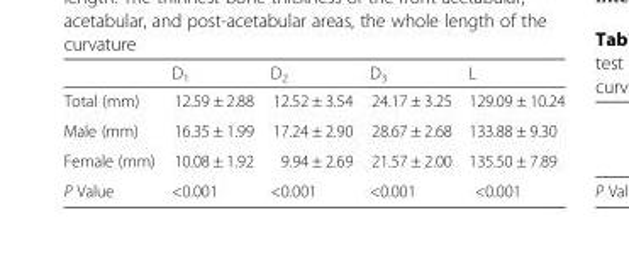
<table><thead><tr><td></td><td>D<sub>1</sub></td><td>D<sub>2</sub></td><td>D<sub>3</sub></td><td>L</td></tr></thead><tbody><tr><td>Total (mm)</td><td>12.59 ± 2.88</td><td>12.52 ± 3.54</td><td>24.17 ± 3.25</td><td>129.09 ± 10.24</td></tr><tr><td>Male (mm)</td><td>16.35 ± 1.99</td><td>17.24 ± 2.90</td><td>28.67 ± 2.68</td><td>133.88 ± 9.30</td></tr><tr><td>Female (mm)</td><td>10.08 ± 1.92</td><td>9.94 ± 2.69</td><td>21.57 ± 2.00</td><td>135.50 ± 7.89</td></tr><tr><td>P Value</td><td>&lt;0.001</td><td>&lt;0.001</td><td>&lt;0.001</td><td>&lt;0.001</td></tr></tbody></table>